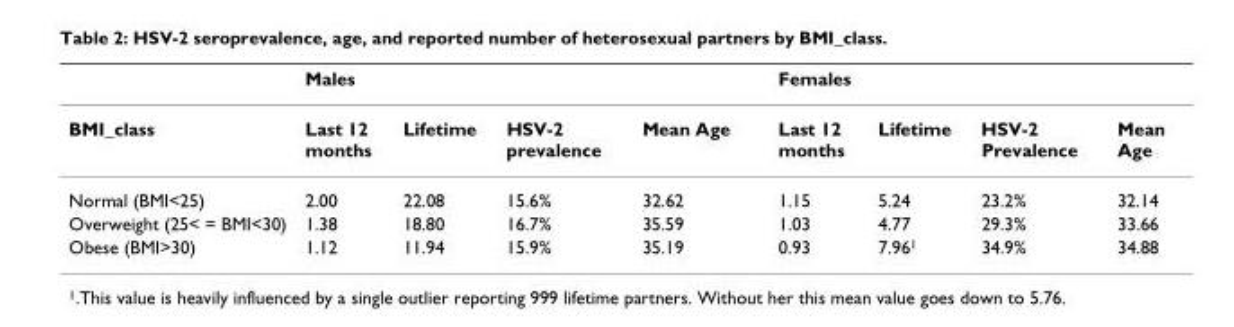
<table><thead><tr><td rowspan="2">BMI_class</td><td colspan="4">Males</td><td colspan="4">Females</td></tr><tr><td>Last 12 months</td><td>Lifetime</td><td>HSV-2 prevalence</td><td>Mean Age</td><td>Last 12 months</td><td>Lifetime</td><td>HSV-2 Prevalence</td><td>Mean Age</td></tr></thead><tbody><tr><td>Normal (BMI&lt;25)</td><td>2.00</td><td>22.08</td><td>15.6%</td><td>32.62</td><td>1.15</td><td>5.24</td><td>23.2%</td><td>32.14</td></tr><tr><td>Overweight (25&lt; = BMI&lt;30)</td><td>1.38</td><td>18.80</td><td>16.7%</td><td>35.59</td><td>1.03</td><td>4.77</td><td>29.3%</td><td>33.66</td></tr><tr><td>Obese (BMI&gt;30)</td><td>1.12</td><td>11.94</td><td>15.9%</td><td>35.19</td><td>0.93</td><td>7.961</td><td>34.9%</td><td>34.88</td></tr></tbody></table>